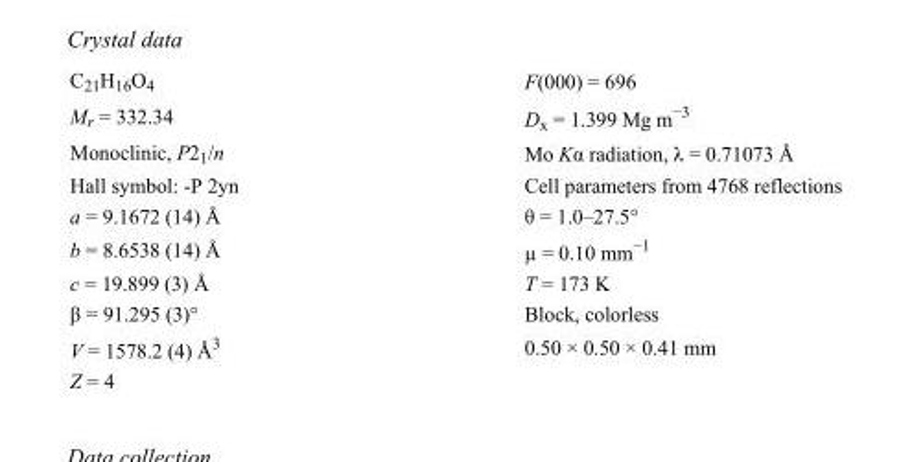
<table><tbody><tr><td>C<sub>21</sub>H<sub>16</sub>O<sub>4</sub></td><td>F(000) = 696</td></tr><tr><td>M<sub>r</sub> = 332.34</td><td>D<sub>x</sub> = 1.399 Mg m<sup>−3</sup></td></tr><tr><td>Monoclinic, P2<sub>1</sub>/n</td><td>Mo Kα radiation, λ = 0.71073 Å</td></tr><tr><td>Hall symbol: -P 2yn</td><td>Cell parameters from 4768 reflections</td></tr><tr><td>a = 9.1672 (14) Å</td><td>θ = 1.0–27.5°</td></tr><tr><td>b = 8.6538 (14) Å</td><td>µ = 0.10 mm<sup>−1</sup></td></tr><tr><td>c = 19.899 (3) Å</td><td>T = 173 K</td></tr><tr><td>β = 91.295 (3)°</td><td>Block, colorless</td></tr><tr><td>V = 1578.2 (4) Å<sup>3</sup></td><td>0.50 × 0.50 × 0.41 mm</td></tr><tr><td>Z = 4</td><td></td></tr></tbody></table>